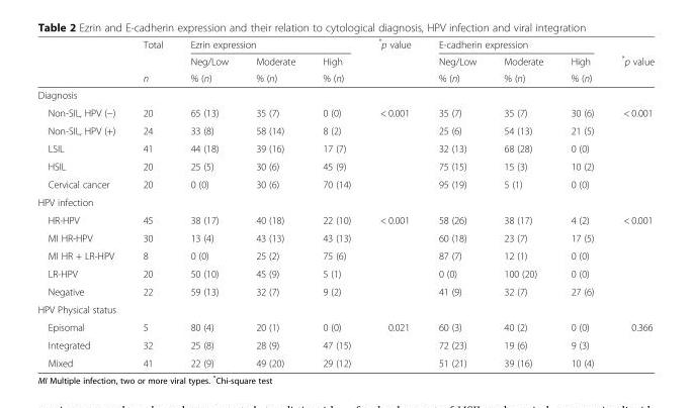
<table><thead><tr><td rowspan="3"></td><td rowspan="3">Total n</td><td colspan="3">Ezrin expression</td><td rowspan="3">*p value</td><td colspan="3">E-cadherin expression</td><td rowspan="3">*p value</td></tr><tr><td rowspan="2">Neg/Low % (n)</td><td rowspan="2">Moderate % (n)</td><td rowspan="2">High % (n)</td><td rowspan="2">Neg/Low % (n)</td><td rowspan="2">Moderate % (n)</td><td rowspan="2">High % (n)</td></tr><tr></tr></thead><tbody><tr><td colspan="10">Diagnosis</td></tr><tr><td>Non-SIL, HPV (−)</td><td>20</td><td>65 (13)</td><td>35 (7)</td><td>0 (0)</td><td rowspan="5">&lt; 0.001</td><td>35 (7)</td><td>35 (7)</td><td>30 (6)</td><td rowspan="5">&lt; 0.001</td></tr><tr><td>Non-SIL, HPV (+)</td><td>24</td><td>33 (8)</td><td>58 (14)</td><td>8 (2)</td><td>25 (6)</td><td>54 (13)</td><td>21 (5)</td></tr><tr><td>LSIL</td><td>41</td><td>44 (18)</td><td>39 (16)</td><td>17 (7)</td><td>32 (13)</td><td>68 (28)</td><td>0 (0)</td></tr><tr><td>HSIL</td><td>20</td><td>25 (5)</td><td>30 (6)</td><td>45 (9)</td><td>75 (15)</td><td>15 (3)</td><td>10 (2)</td></tr><tr><td>Cervical cancer</td><td>20</td><td>0 (0)</td><td>30 (6)</td><td>70 (14)</td><td>95 (19)</td><td>5 (1)</td><td>0 (0)</td></tr><tr><td colspan="10">HPV infection</td></tr><tr><td>HR-HPV</td><td>45</td><td>38 (17)</td><td>40 (18)</td><td>22 (10)</td><td rowspan="5">&lt; 0.001</td><td>58 (26)</td><td>38 (17)</td><td>4 (2)</td><td rowspan="5">&lt; 0.001</td></tr><tr><td>MI HR-HPV</td><td>30</td><td>13 (4)</td><td>43 (13)</td><td>43 (13)</td><td>60 (18)</td><td>23 (7)</td><td>17 (5)</td></tr><tr><td>MI HR + LR-HPV</td><td>8</td><td>0 (0)</td><td>25 (2)</td><td>75 (6)</td><td>87 (7)</td><td>12 (1)</td><td>0 (0)</td></tr><tr><td>LR-HPV</td><td>20</td><td>50 (10)</td><td>45 (9)</td><td>5 (1)</td><td>0 (0)</td><td>100 (20)</td><td>0 (0)</td></tr><tr><td>Negative</td><td>22</td><td>59 (13)</td><td>32 (7)</td><td>9 (2)</td><td>41 (9)</td><td>32 (7)</td><td>27 (6)</td></tr><tr><td colspan="10">HPV Physical status</td></tr><tr><td>Episomal</td><td>5</td><td>80 (4)</td><td>20 (1)</td><td>0 (0)</td><td rowspan="3">0.021</td><td>60 (3)</td><td>40 (2)</td><td>0 (0)</td><td rowspan="3">0.366</td></tr><tr><td>Integrated</td><td>32</td><td>25 (8)</td><td>28 (9)</td><td>47 (15)</td><td>72 (23)</td><td>19 (6)</td><td>9 (3)</td></tr><tr><td>Mixed</td><td>41</td><td>22 (9)</td><td>49 (20)</td><td>29 (12)</td><td>51 (21)</td><td>39 (16)</td><td>10 (4)</td></tr></tbody></table>